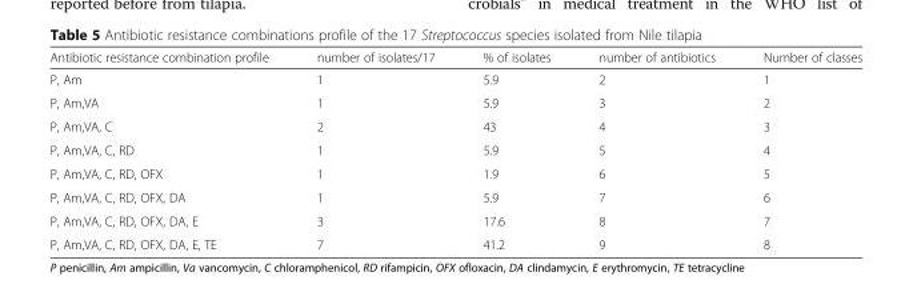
<table><thead><tr><td>Antibiotic resistance combination profile</td><td>number of isolates/17</td><td>% of isolates</td><td>number of antibiotics</td><td>Number of classes</td></tr></thead><tbody><tr><td>P, Am</td><td>1</td><td>5.9</td><td>2</td><td>1</td></tr><tr><td>P, Am,VA</td><td>1</td><td>5.9</td><td>3</td><td>2</td></tr><tr><td>P, Am,VA, C</td><td>2</td><td>43</td><td>4</td><td>3</td></tr><tr><td>P, Am,VA, C, RD</td><td>1</td><td>5.9</td><td>5</td><td>4</td></tr><tr><td>P, Am,VA, C, RD, OFX</td><td>1</td><td>1.9</td><td>6</td><td>5</td></tr><tr><td>P, Am,VA, C, RD, OFX, DA</td><td>1</td><td>5.9</td><td>7</td><td>6</td></tr><tr><td>P, Am,VA, C, RD, OFX, DA, E</td><td>3</td><td>17.6</td><td>8</td><td>7</td></tr><tr><td>P, Am,VA, C, RD, OFX, DA, E, TE</td><td>7</td><td>41.2</td><td>9</td><td>8</td></tr></tbody></table>